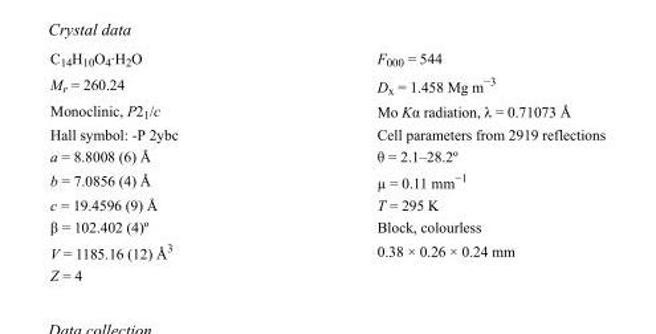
<table><tbody><tr><td>C<sub>14</sub>H<sub>10</sub>O<sub>4</sub>·H<sub>2</sub>O</td><td>F000 = 544</td></tr><tr><td>M<sub>r</sub> = 260.24</td><td>D<sub>x</sub> = 1.458 Mg m<sup>−3</sup></td></tr><tr><td>Monoclinic, P2<sub>1</sub>/c</td><td>Mo Kα radiation, λ = 0.71073 Å</td></tr><tr><td>Hall symbol: -P 2ybc</td><td>Cell parameters from 2919 reflections</td></tr><tr><td>a = 8.8008 (6) Å</td><td>θ = 2.1–28.2º</td></tr><tr><td>b = 7.0856 (4) Å</td><td>µ = 0.11 mm<sup>−1</sup></td></tr><tr><td>c = 19.4596 (9) Å</td><td>T = 295 K</td></tr><tr><td>β = 102.402 (4)º</td><td>Block, colourless</td></tr><tr><td>V = 1185.16 (12) Å<sup>3</sup></td><td>0.38 × 0.26 × 0.24 mm</td></tr><tr><td>Z = 4</td><td></td></tr></tbody></table>